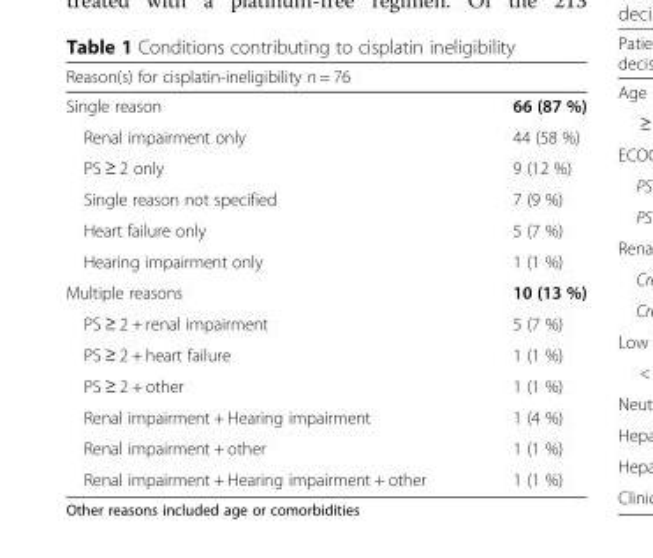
<table><thead><tr><td colspan="2">Reason(s) for cisplatin-ineligibility n = 76</td></tr><tr><td>Single reason</td><td>66 (87 %)</td></tr></thead><tbody><tr><td>Renal impairment only</td><td>44 (58 %)</td></tr><tr><td>PS ≥ 2 only</td><td>9 (12 %)</td></tr><tr><td>Single reason not specified</td><td>7 (9 %)</td></tr><tr><td>Heart failure only</td><td>5 (7 %)</td></tr><tr><td>Hearing impairment only</td><td>1 (1 %)</td></tr><tr><td>Multiple reasons</td><td>10 (13 %)</td></tr><tr><td>PS ≥ 2 + renal impairment</td><td>5 (7 %)</td></tr><tr><td>PS ≥ 2 + heart failure</td><td>1 (1 %)</td></tr><tr><td>PS ≥ 2 + other</td><td>1 (1 %)</td></tr><tr><td>Renal impairment + Hearing impairment</td><td>1 (4 %)</td></tr><tr><td>Renal impairment + other</td><td>1 (1 %)</td></tr><tr><td>Renal impairment + Hearing impairment + other</td><td>1 (1 %)</td></tr></tbody></table>